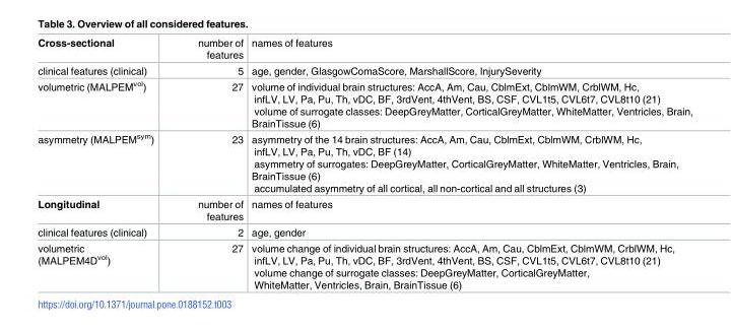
<table><tbody><tr><td>Cross-sectional</td><td>number of features</td><td>names of features</td></tr><tr><td>clinical features (clinical)</td><td>5</td><td>age, gender, GlasgowComaScore, MarshallScore, InjurySeverity</td></tr><tr><td>volumetric (MALPEM<sup>vol</sup>)</td><td>27</td><td>volume of individual brain structures: AccA, Am, Cau, CblmExt, CblmWM, CrblWM, Hc, infLV, LV, Pa, Pu, Th, vDC, BF, 3rdVent, 4thVent, BS, CSF, CVL1t5, CVL6t7, CVL8t10 (21) volume of surrogate classes: DeepGreyMatter, CorticalGreyMatter, WhiteMatter, Ventricles, Brain, BrainTissue (6)</td></tr><tr><td>asymmetry (MALPEM<sup>sym</sup>)</td><td>23</td><td>asymmetry of the 14 brain structures: AccA, Am, Cau, CblmExt, CblmWM, CrblWM, Hc, infLV, LV, Pa, Pu, Th, vDC, BF (14) asymmetry of surrogates: DeepGreyMatter, CorticalGreyMatter, WhiteMatter, Ventricles, Brain, BrainTissue (6) accumulated asymmetry of all cortical, all non-cortical and all structures (3)</td></tr><tr><td>Longitudinal</td><td>number of features</td><td>names of features</td></tr><tr><td>clinical features (clinical)</td><td>2</td><td>age, gender</td></tr><tr><td>volumetric (MALPEM4D<sup>vol</sup>)</td><td>27</td><td>volume change of individual brain structures: AccA, Am, Cau, CblmExt, CblmWM, CrblWM, Hc, infLV, LV, Pa, Pu, Th, vDC, BF, 3rdVent, 4thVent, BS, CSF, CVL1t5, CVL6t7, CVL8t10 (21) volume change of surrogate classes: DeepGreyMatter, CorticalGreyMatter, WhiteMatter, Ventricles, Brain, BrainTissue (6)</td></tr></tbody></table>